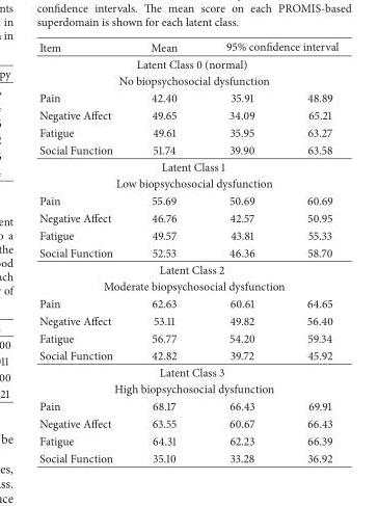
<table><thead><tr><td>Item</td><td>Mean</td><td colspan="2">95% confidence interval</td></tr><tr><td rowspan="2" colspan="4">Latent Class 0 (normal) No biopsychosocial dysfunction</td></tr><tr></tr><tr><td>Pain</td><td>42.40</td><td>35.91</td><td>48.89</td></tr></thead><tbody><tr><td>Negative Affect</td><td>49.65</td><td>34.09</td><td>65.21</td></tr><tr><td>Fatigue</td><td>49.61</td><td>35.95</td><td>63.27</td></tr><tr><td>Social Function</td><td>51.74</td><td>39.90</td><td>63.58</td></tr><tr><td colspan="4">Latent Class 1</td></tr><tr><td colspan="4">Low biopsychosocial dysfunction</td></tr><tr><td>Pain</td><td>55.69</td><td>50.69</td><td>60.69</td></tr><tr><td>Negative Affect</td><td>46.76</td><td>42.57</td><td>50.95</td></tr><tr><td>Fatigue</td><td>49.57</td><td>43.81</td><td>55.33</td></tr><tr><td>Social Function</td><td>52.53</td><td>46.36</td><td>58.70</td></tr><tr><td colspan="4">Latent Class 2</td></tr><tr><td colspan="4">Moderate biopsychosocial dysfunction</td></tr><tr><td>Pain</td><td>62.63</td><td>60.61</td><td>64.65</td></tr><tr><td>Negative Affect</td><td>53.11</td><td>49.82</td><td>56.40</td></tr><tr><td>Fatigue</td><td>56.77</td><td>54.20</td><td>59.34</td></tr><tr><td>Social Function</td><td>42.82</td><td>39.72</td><td>45.92</td></tr><tr><td colspan="4">Latent Class 3</td></tr><tr><td colspan="4">High biopsychosocial dysfunction</td></tr><tr><td>Pain</td><td>68.17</td><td>66.43</td><td>69.91</td></tr><tr><td>Negative Affect</td><td>63.55</td><td>60.67</td><td>66.43</td></tr><tr><td>Fatigue</td><td>64.31</td><td>62.23</td><td>66.39</td></tr><tr><td>Social Function</td><td>35.10</td><td>33.28</td><td>36.92</td></tr></tbody></table>